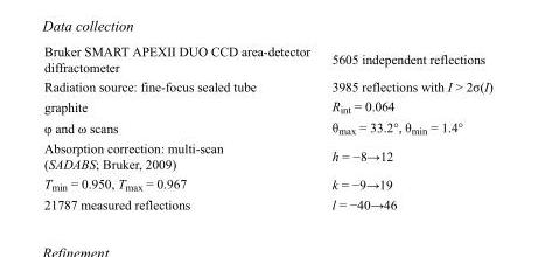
<table><tbody><tr><td>Bruker SMART APEXII DUO CCD area-detector diffractometer</td><td>5605 independent reflections</td></tr><tr><td>Radiation source: fine-focus sealed tube</td><td>3985 reflections with I &gt; 2σ(I)</td></tr><tr><td>graphite</td><td>R<sub>int</sub> = 0.064</td></tr><tr><td>φ and ω scans</td><td>θ<sub>max</sub> = 33.2°, θ<sub>min</sub> = 1.4°</td></tr><tr><td>Absorption correction: multi-scan (SADABS; Bruker, 2009)</td><td>h = −8→12</td></tr><tr><td>T<sub>min</sub> = 0.950, T<sub>max</sub> = 0.967</td><td>k = −9→19</td></tr><tr><td>21787 measured reflections</td><td>l = −40→46</td></tr></tbody></table>